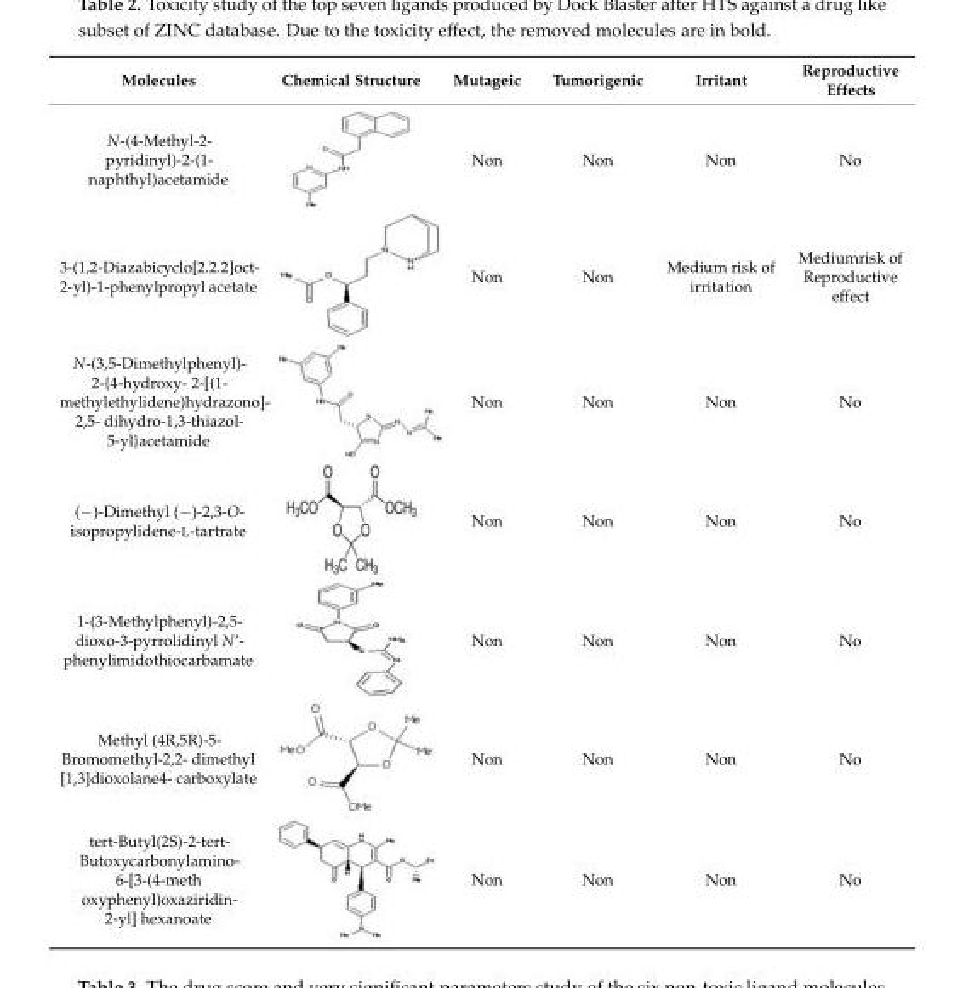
<table><thead><tr><td>Molecules</td><td>Chemical Structure</td><td>Mutageic</td><td>Tumorigenic</td><td>Irritant</td><td>Reproductive Effects</td></tr></thead><tbody><tr><td>N-(4-Methyl-2- pyridinyl)-2-(1- naphthyl)acetamide</td><td></td><td>Non</td><td>Non</td><td>Non</td><td>No</td></tr><tr><td>3-(1,2-Diazabicyclo[2.2.2]oct- 2-yl)-1-phenylpropyl acetate</td><td></td><td>Non</td><td>Non</td><td>Medium risk of irritation</td><td>Mediumrisk of Reproductive effect</td></tr><tr><td>N-(3,5-Dimethylphenyl)- 2-{4-hydroxy- 2-[(1- methylethylidene)hydrazono]- 2,5- dihydro-1,3-thiazol- 5-yl}acetamide</td><td></td><td>Non</td><td>Non</td><td>Non</td><td>No</td></tr><tr><td>(−)-Dimethyl (−)-2,3-O- isopropylidene-L-tartrate</td><td></td><td>Non</td><td>Non</td><td>Non</td><td>No</td></tr><tr><td>1-(3-Methylphenyl)-2,5- dioxo-3-pyrrolidinyl N’- phenylimidothiocarbamate</td><td></td><td>Non</td><td>Non</td><td>Non</td><td>No</td></tr><tr><td>Methyl (4R,5R)-5- Bromomethyl-2,2- dimethyl [1,3]dioxolane4- carboxylate</td><td></td><td>Non</td><td>Non</td><td>Non</td><td>No</td></tr><tr><td>tert-Butyl(2S)-2-tert- Butoxycarbonylamino- 6-[3-(4-meth oxyphenyl)oxaziridin- 2-yl] hexanoate</td><td></td><td>Non</td><td>Non</td><td>Non</td><td>No</td></tr></tbody></table>